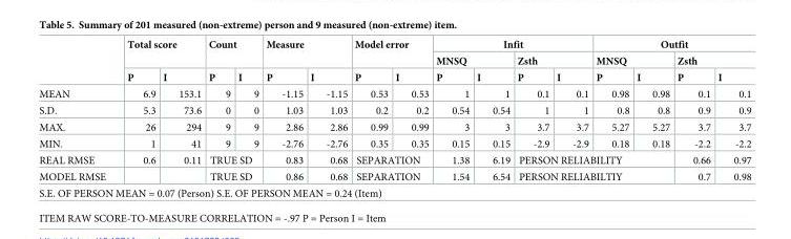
<table><thead><tr><td rowspan="3"></td><td rowspan="2" colspan="2">Total score</td><td rowspan="2" colspan="2">Count</td><td rowspan="2" colspan="2">Measure</td><td rowspan="2" colspan="2">Model error</td><td colspan="4">Infit</td><td colspan="4">Outfit</td></tr><tr><td colspan="2">MNSQ</td><td colspan="2">Zsth</td><td colspan="2">MNSQ</td><td colspan="2">Zsth</td></tr><tr><td>P</td><td>I</td><td>P</td><td>I</td><td>P</td><td>I</td><td>P</td><td>I</td><td>P</td><td>I</td><td>P</td><td>I</td><td>P</td><td>I</td><td>P</td><td>I</td></tr></thead><tbody><tr><td>MEAN</td><td>6.9</td><td>153.1</td><td>9</td><td>9</td><td>-1.15</td><td>-1.15</td><td>0.53</td><td>0.53</td><td>1</td><td>1</td><td>0.1</td><td>0.1</td><td>0.98</td><td>0.98</td><td>0.1</td><td>0.1</td></tr><tr><td>S.D.</td><td>5.3</td><td>73.6</td><td>0</td><td>0</td><td>1.03</td><td>1.03</td><td>0.2</td><td>0.2</td><td>0.54</td><td>0.54</td><td>1</td><td>1</td><td>0.8</td><td>0.8</td><td>0.9</td><td>0.9</td></tr><tr><td>MAX.</td><td>26</td><td>294</td><td>9</td><td>9</td><td>2.86</td><td>2.86</td><td>0.99</td><td>0.99</td><td>3</td><td>3</td><td>3.7</td><td>3.7</td><td>5.27</td><td>5.27</td><td>3.7</td><td>3.7</td></tr><tr><td>MIN.</td><td>1</td><td>41</td><td>9</td><td>9</td><td>-2.76</td><td>-2.76</td><td>0.35</td><td>0.35</td><td>0.15</td><td>0.15</td><td>-2.9</td><td>-2.9</td><td>0.18</td><td>0.18</td><td>-2.2</td><td>-2.2</td></tr><tr><td>REAL RMSE</td><td>0.6</td><td>0.11</td><td colspan="2">TRUE SD</td><td>0.83</td><td>0.68</td><td colspan="2">SEPARATION</td><td>1.38</td><td>6.19</td><td colspan="4">PERSON RELIABILITY</td><td>0.66</td><td>0.97</td></tr><tr><td>MODEL RMSE</td><td></td><td></td><td colspan="2">TRUE SD</td><td>0.86</td><td>0.68</td><td colspan="2">SEPARATION</td><td>1.54</td><td>6.54</td><td colspan="4">PERSON RELIABILTIY</td><td>0.7</td><td>0.98</td></tr><tr><td colspan="17">S.E. OF PERSON MEAN = 0.07 (Person) S.E. OF PERSON MEAN = 0.24 (Item)</td></tr></tbody></table>